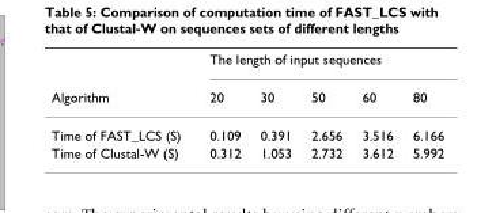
<table><thead><tr><td rowspan="2">Algorithm</td><td colspan="5">The length of input sequences</td></tr><tr><td>20</td><td>30</td><td>50</td><td>60</td><td>80</td></tr></thead><tbody><tr><td>Time of FAST_LCS (S)</td><td>0.109</td><td>0.391</td><td>2.656</td><td>3.516</td><td>6.166</td></tr><tr><td>Time of Clustal-W (S)</td><td>0.312</td><td>1.053</td><td>2.732</td><td>3.612</td><td>5.992</td></tr></tbody></table>